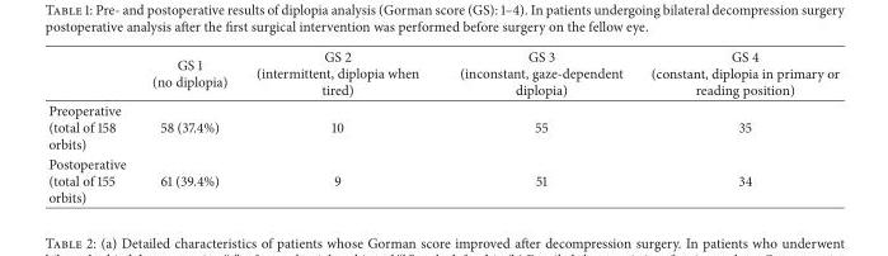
<table><thead><tr><td></td><td>GS 1 (no diplopia)</td><td>GS 2 (intermittent, diplopia when tired)</td><td>GS 3 (inconstant, gaze-dependent diplopia)</td><td>GS 4 (constant, diplopia in primary or reading position)</td></tr></thead><tbody><tr><td>Preoperative (total of 158 orbits)</td><td>58 (37.4%)</td><td>10</td><td>55</td><td>35</td></tr><tr><td>Postoperative (total of 155 orbits)</td><td>61 (39.4%)</td><td>9</td><td>51</td><td>34</td></tr></tbody></table>